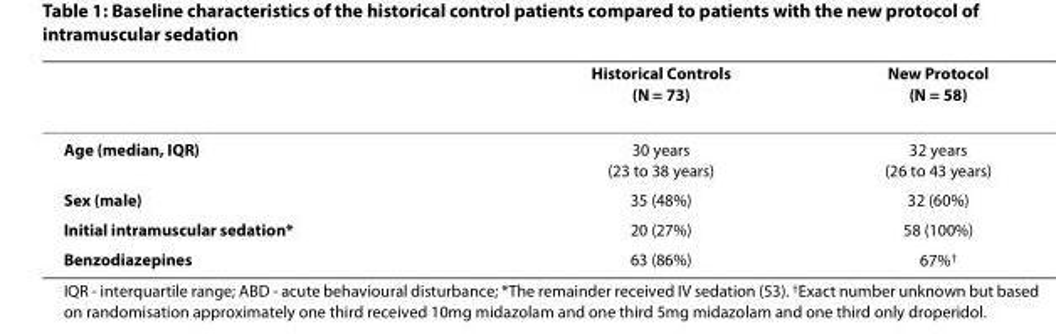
<table><thead><tr><td></td><td>Historical Controls (N = 73)</td><td>New Protocol (N = 58)</td></tr></thead><tbody><tr><td>Age (median, IQR)</td><td>30 years (23 to 38 years)</td><td>32 years (26 to 43 years)</td></tr><tr><td>Sex (male)</td><td>35 (48%)</td><td>32 (60%)</td></tr><tr><td>Initial intramuscular sedation*</td><td>20 (27%)</td><td>58 (100%)</td></tr><tr><td>Benzodiazepines</td><td>63 (86%)</td><td>67%<sup>†</sup></td></tr></tbody></table>